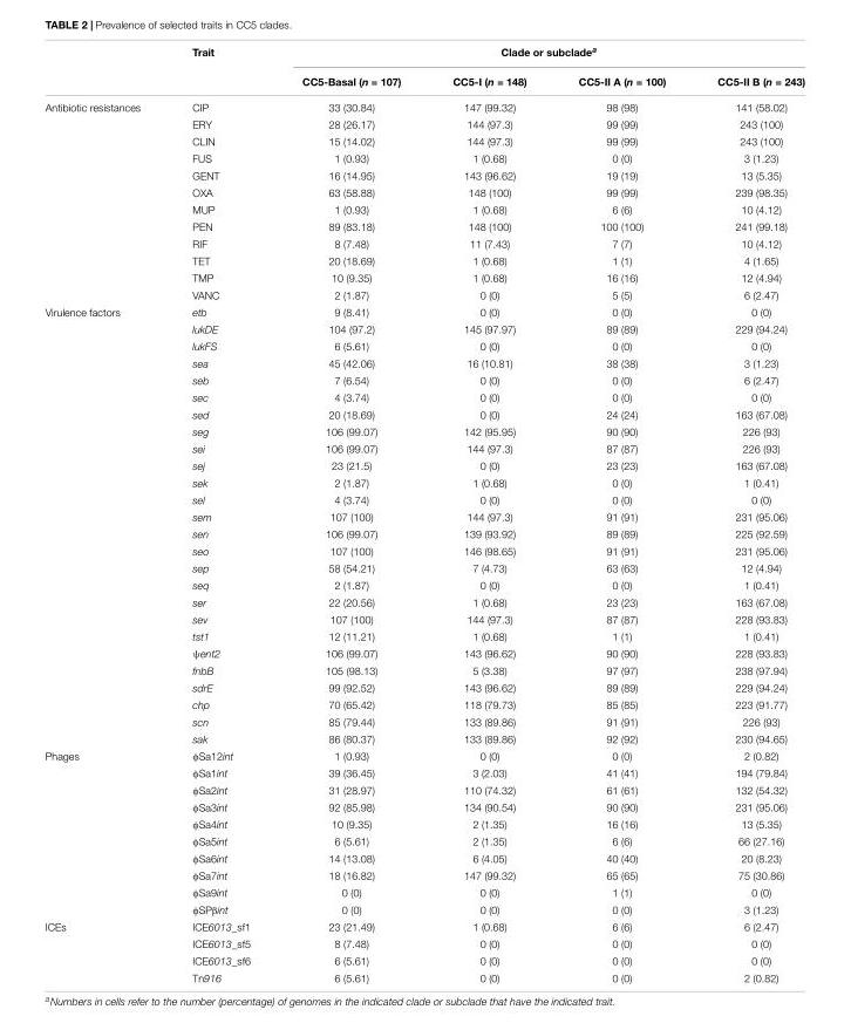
<table><thead><tr><td rowspan="2"></td><td rowspan="2">Trait</td><td colspan="4">Clade or subclade<sup>a</sup></td></tr><tr><td>CC5-Basal (n = 107)</td><td>CC5-I (n = 148)</td><td>CC5-II A (n = 100)</td><td>CC5-II B (n = 243)</td></tr></thead><tbody><tr><td rowspan="12">Antibiotic resistances</td><td>CIP</td><td>33 (30.84)</td><td>147 (99.32)</td><td>98 (98)</td><td>141 (58.02)</td></tr><tr><td>ERY</td><td>28 (26.17)</td><td>144 (97.3)</td><td>99 (99)</td><td>243 (100)</td></tr><tr><td>CLIN</td><td>15 (14.02)</td><td>144 (97.3)</td><td>99 (99)</td><td>243 (100)</td></tr><tr><td>FUS</td><td>1 (0.93)</td><td>1 (0.68)</td><td>0 (0)</td><td>3 (1.23)</td></tr><tr><td>GENT</td><td>16 (14.95)</td><td>143 (96.62)</td><td>19 (19)</td><td>13 (5.35)</td></tr><tr><td>OXA</td><td>63 (58.88)</td><td>148 (100)</td><td>99 (99)</td><td>239 (98.35)</td></tr><tr><td>MUP</td><td>1 (0.93)</td><td>1 (0.68)</td><td>6 (6)</td><td>10 (4.12)</td></tr><tr><td>PEN</td><td>89 (83.18)</td><td>148 (100)</td><td>100 (100)</td><td>241 (99.18)</td></tr><tr><td>RIF</td><td>8 (7.48)</td><td>11 (7.43)</td><td>7 (7)</td><td>10 (4.12)</td></tr><tr><td>TET</td><td>20 (18.69)</td><td>1 (0.68)</td><td>1 (1)</td><td>4 (1.65)</td></tr><tr><td>TMP</td><td>10 (9.35)</td><td>1 (0.68)</td><td>16 (16)</td><td>12 (4.94)</td></tr><tr><td>VANC</td><td>2 (1.87)</td><td>0 (0)</td><td>5 (5)</td><td>6 (2.47)</td></tr><tr><td rowspan="26">Virulence factors</td><td>etb</td><td>9 (8.41)</td><td>0 (0)</td><td>0 (0)</td><td>0 (0)</td></tr><tr><td>lukDE</td><td>104 (97.2)</td><td>145 (97.97)</td><td>89 (89)</td><td>229 (94.24)</td></tr><tr><td>lukFS</td><td>6 (5.61)</td><td>0 (0)</td><td>0 (0)</td><td>0 (0)</td></tr><tr><td>sea</td><td>45 (42.06)</td><td>16 (10.81)</td><td>38 (38)</td><td>3 (1.23)</td></tr><tr><td>seb</td><td>7 (6.54)</td><td>0 (0)</td><td>0 (0)</td><td>6 (2.47)</td></tr><tr><td>sec</td><td>4 (3.74)</td><td>0 (0)</td><td>0 (0)</td><td>0 (0)</td></tr><tr><td>sed</td><td>20 (18.69)</td><td>0 (0)</td><td>24 (24)</td><td>163 (67.08)</td></tr><tr><td>seg</td><td>106 (99.07)</td><td>142 (95.95)</td><td>90 (90)</td><td>226 (93)</td></tr><tr><td>sei</td><td>106 (99.07)</td><td>144 (97.3)</td><td>87 (87)</td><td>226 (93)</td></tr><tr><td>sej</td><td>23 (21.5)</td><td>0 (0)</td><td>23 (23)</td><td>163 (67.08)</td></tr><tr><td>sek</td><td>2 (1.87)</td><td>1 (0.68)</td><td>0 (0)</td><td>1 (0.41)</td></tr><tr><td>sel</td><td>4 (3.74)</td><td>0 (0)</td><td>0 (0)</td><td>0 (0)</td></tr><tr><td>sem</td><td>107 (100)</td><td>144 (97.3)</td><td>91 (91)</td><td>231 (95.06)</td></tr><tr><td>sen</td><td>106 (99.07)</td><td>139 (93.92)</td><td>89 (89)</td><td>225 (92.59)</td></tr><tr><td>seo</td><td>107 (100)</td><td>146 (98.65)</td><td>91 (91)</td><td>231 (95.06)</td></tr><tr><td>sep</td><td>58 (54.21)</td><td>7 (4.73)</td><td>63 (63)</td><td>12 (4.94)</td></tr><tr><td>seq</td><td>2 (1.87)</td><td>0 (0)</td><td>0 (0)</td><td>1 (0.41)</td></tr><tr><td>ser</td><td>22 (20.56)</td><td>1 (0.68)</td><td>23 (23)</td><td>163 (67.08)</td></tr><tr><td>sev</td><td>107 (100)</td><td>144 (97.3)</td><td>87 (87)</td><td>228 (93.83)</td></tr><tr><td>tst1</td><td>12 (11.21)</td><td>1 (0.68)</td><td>1 (1)</td><td>1 (0.41)</td></tr><tr><td>ψent2</td><td>106 (99.07)</td><td>143 (96.62)</td><td>90 (90)</td><td>228 (93.83)</td></tr><tr><td>fnbB</td><td>105 (98.13)</td><td>5 (3.38)</td><td>97 (97)</td><td>238 (97.94)</td></tr><tr><td>sdrE</td><td>99 (92.52)</td><td>143 (96.62)</td><td>89 (89)</td><td>229 (94.24)</td></tr><tr><td>chp</td><td>70 (65.42)</td><td>118 (79.73)</td><td>85 (85)</td><td>223 (91.77)</td></tr><tr><td>scn</td><td>85 (79.44)</td><td>133 (89.86)</td><td>91 (91)</td><td>226 (93)</td></tr><tr><td>sak</td><td>86 (80.37)</td><td>133 (89.86)</td><td>92 (92)</td><td>230 (94.65)</td></tr><tr><td rowspan="10">Phages</td><td>φSa12int</td><td>1 (0.93)</td><td>0 (0)</td><td>0 (0)</td><td>2 (0.82)</td></tr><tr><td>φSa1int</td><td>39 (36.45)</td><td>3 (2.03)</td><td>41 (41)</td><td>194 (79.84)</td></tr><tr><td>φSa2int</td><td>31 (28.97)</td><td>110 (74.32)</td><td>61 (61)</td><td>132 (54.32)</td></tr><tr><td>φSa3int</td><td>92 (85.98)</td><td>134 (90.54)</td><td>90 (90)</td><td>231 (95.06)</td></tr><tr><td>φSa4int</td><td>10 (9.35)</td><td>2 (1.35)</td><td>16 (16)</td><td>13 (5.35)</td></tr><tr><td>φSa5int</td><td>6 (5.61)</td><td>2 (1.35)</td><td>6 (6)</td><td>66 (27.16)</td></tr><tr><td>φSa6int</td><td>14 (13.08)</td><td>6 (4.05)</td><td>40 (40)</td><td>20 (8.23)</td></tr><tr><td>φSa7int</td><td>18 (16.82)</td><td>147 (99.32)</td><td>65 (65)</td><td>75 (30.86)</td></tr><tr><td>φSa9int</td><td>0 (0)</td><td>0 (0)</td><td>1 (1)</td><td>0 (0)</td></tr><tr><td>φSPβint</td><td>0 (0)</td><td>0 (0)</td><td>0 (0)</td><td>3 (1.23)</td></tr><tr><td rowspan="4">ICEs</td><td>ICE6013_sf1</td><td>23 (21.49)</td><td>1 (0.68)</td><td>6 (6)</td><td>6 (2.47)</td></tr><tr><td>ICE6013_sf5</td><td>8 (7.48)</td><td>0 (0)</td><td>0 (0)</td><td>0 (0)</td></tr><tr><td>ICE6013_sf6</td><td>6 (5.61)</td><td>0 (0)</td><td>0 (0)</td><td>0 (0)</td></tr><tr><td>Tn916</td><td>6 (5.61)</td><td>0 (0)</td><td>0 (0)</td><td>2 (0.82)</td></tr></tbody></table>